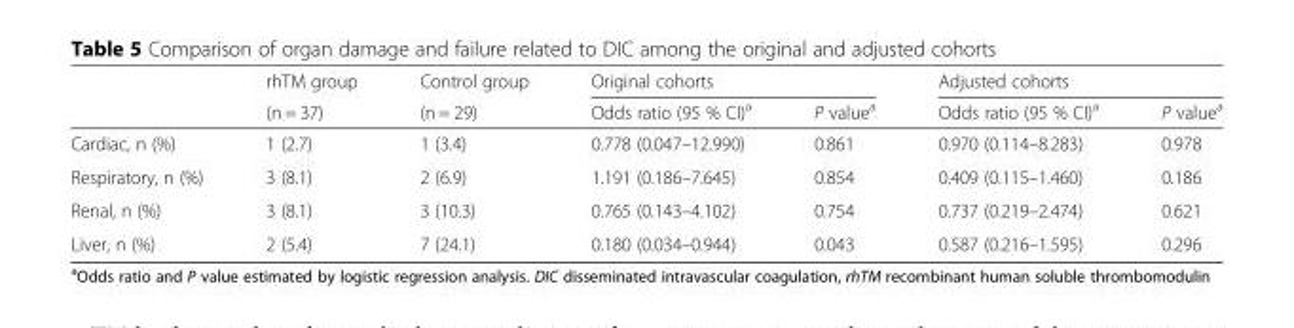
<table><thead><tr><td rowspan="2"></td><td rowspan="2">rhTM group (n = 37)</td><td rowspan="2">Control group (n = 29)</td><td colspan="2">Original cohorts</td><td colspan="2">Adjusted cohorts</td></tr><tr><td>Odds ratio (95 % CI)<sup>a</sup></td><td>P value<sup>a</sup></td><td>Odds ratio (95 % CI)<sup>a</sup></td><td>P value<sup>a</sup></td></tr></thead><tbody><tr><td>Cardiac, n (%)</td><td>1 (2.7)</td><td>1 (3.4)</td><td>0.778 (0.047–12.990)</td><td>0.861</td><td>0.970 (0.114–8.283)</td><td>0.978</td></tr><tr><td>Respiratory, n (%)</td><td>3 (8.1)</td><td>2 (6.9)</td><td>1.191 (0.186–7.645)</td><td>0.854</td><td>0.409 (0.115–1.460)</td><td>0.186</td></tr><tr><td>Renal, n (%)</td><td>3 (8.1)</td><td>3 (10.3)</td><td>0.765 (0.143–4.102)</td><td>0.754</td><td>0.737 (0.219–2.474)</td><td>0.621</td></tr><tr><td>Liver, n (%)</td><td>2 (5.4)</td><td>7 (24.1)</td><td>0.180 (0.034–0.944)</td><td>0.043</td><td>0.587 (0.216–1.595)</td><td>0.296</td></tr></tbody></table>